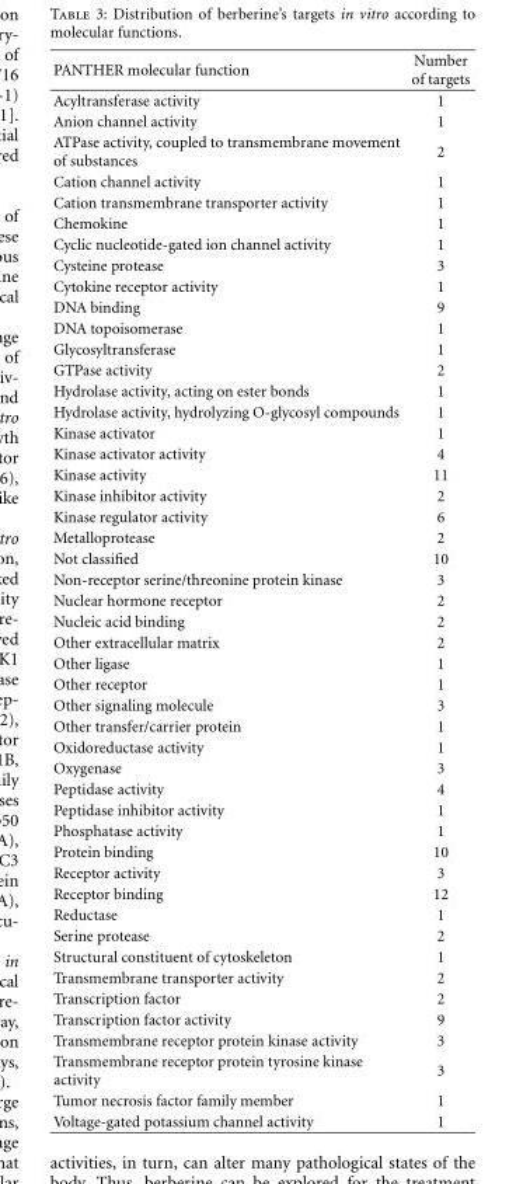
<table><thead><tr><td>PANTHER molecular function</td><td>Number of targets</td></tr></thead><tbody><tr><td>Acyltransferase activity</td><td>1</td></tr><tr><td>Anion channel activity</td><td>1</td></tr><tr><td>ATPase activity, coupled to transmembrane movement of substances</td><td>2</td></tr><tr><td>Cation channel activity</td><td>1</td></tr><tr><td>Cation transmembrane transporter activity</td><td>1</td></tr><tr><td>Chemokine</td><td>1</td></tr><tr><td>Cyclic nucleotide-gated ion channel activity</td><td>1</td></tr><tr><td>Cysteine protease</td><td>3</td></tr><tr><td>Cytokine receptor activity</td><td>1</td></tr><tr><td>DNA binding</td><td>9</td></tr><tr><td>DNA topoisomerase</td><td>1</td></tr><tr><td>Glycosyltransferase</td><td>1</td></tr><tr><td>GTPase activity</td><td>2</td></tr><tr><td>Hydrolase activity, acting on ester bonds</td><td>1</td></tr><tr><td>Hydrolase activity, hydrolyzing O-glycosyl compounds</td><td>1</td></tr><tr><td>Kinase activator</td><td>1</td></tr><tr><td>Kinase activator activity</td><td>4</td></tr><tr><td>Kinase activity</td><td>11</td></tr><tr><td>Kinase inhibitor activity</td><td>2</td></tr><tr><td>Kinase regulator activity</td><td>6</td></tr><tr><td>Metalloprotease</td><td>2</td></tr><tr><td>Not classified</td><td>10</td></tr><tr><td>Non-receptor serine/threonine protein kinase</td><td>3</td></tr><tr><td>Nuclear hormone receptor</td><td>2</td></tr><tr><td>Nucleic acid binding</td><td>2</td></tr><tr><td>Other extracellular matrix</td><td>2</td></tr><tr><td>Other ligase</td><td>1</td></tr><tr><td>Other receptor</td><td>1</td></tr><tr><td>Other signaling molecule</td><td>3</td></tr><tr><td>Other transfer/carrier protein</td><td>1</td></tr><tr><td>Oxidoreductase activity</td><td>1</td></tr><tr><td>Oxygenase</td><td>3</td></tr><tr><td>Peptidase activity</td><td>4</td></tr><tr><td>Peptidase inhibitor activity</td><td>1</td></tr><tr><td>Phosphatase activity</td><td>1</td></tr><tr><td>Protein binding</td><td>10</td></tr><tr><td>Receptor activity</td><td>3</td></tr><tr><td>Receptor binding</td><td>12</td></tr><tr><td>Reductase</td><td>1</td></tr><tr><td>Serine protease</td><td>2</td></tr><tr><td>Structural constituent of cytoskeleton</td><td>1</td></tr><tr><td>Transmembrane transporter activity</td><td>2</td></tr><tr><td>Transcription factor</td><td>2</td></tr><tr><td>Transcription factor activity</td><td>9</td></tr><tr><td>Transmembrane receptor protein kinase activity</td><td>3</td></tr><tr><td>Transmembrane receptor protein tyrosine kinase activity</td><td>3</td></tr><tr><td>Tumor necrosis factor family member</td><td>1</td></tr><tr><td>Voltage-gated potassium channel activity</td><td>1</td></tr></tbody></table>